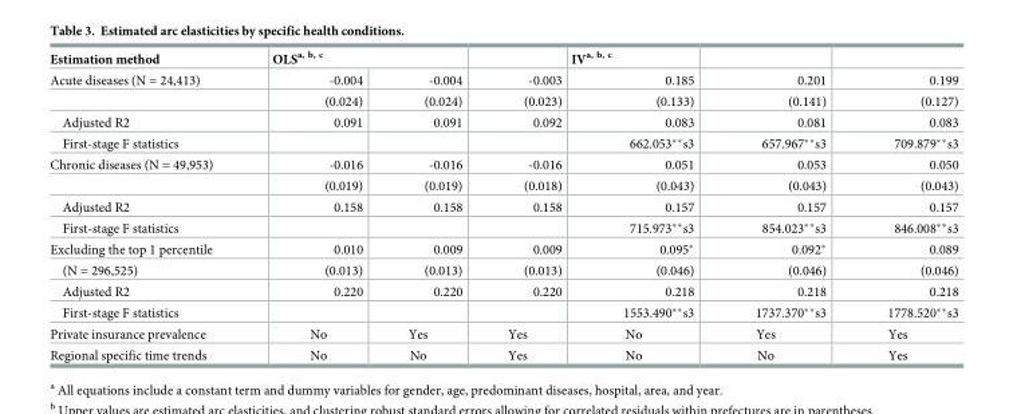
<table><thead><tr><td rowspan="2">Estimation method Acute diseases (N = 24,413)</td><td colspan="2">OLS<sup>a, b, c</sup></td><td rowspan="2">-0.003</td><td rowspan="2">IV<sup>a, b, c</sup> 0.185</td><td rowspan="2">0.201</td><td rowspan="2">0.199</td></tr><tr><td>-0.004</td><td>-0.004</td></tr></thead><tbody><tr><td></td><td>(0.024)</td><td>(0.024)</td><td>(0.023)</td><td>(0.133)</td><td>(0.141)</td><td>(0.127)</td></tr><tr><td>Adjusted R2</td><td>0.091</td><td>0.091</td><td>0.092</td><td>0.083</td><td>0.081</td><td>0.083</td></tr><tr><td>First-stage F statistics</td><td></td><td></td><td></td><td>662.053**s3</td><td>657.967**s3</td><td>709.879**s3</td></tr><tr><td rowspan="2">Chronic diseases (N = 49,953)</td><td>-0.016</td><td>-0.016</td><td>-0.016</td><td>0.051</td><td>0.053</td><td>0.050</td></tr><tr><td>(0.019)</td><td>(0.019)</td><td>(0.018)</td><td>(0.043)</td><td>(0.043)</td><td>(0.043)</td></tr><tr><td>Adjusted R2</td><td>0.158</td><td>0.158</td><td>0.158</td><td>0.157</td><td>0.157</td><td>0.157</td></tr><tr><td>First-stage F statistics</td><td></td><td></td><td></td><td>715.973**s3</td><td>854.023**s3</td><td>846.008**s3</td></tr><tr><td>Excluding the top 1 percentile</td><td>0.010</td><td>0.009</td><td>0.009</td><td>0.095*</td><td>0.092*</td><td>0.089</td></tr><tr><td>(N = 296,525)</td><td>(0.013)</td><td>(0.013)</td><td>(0.013)</td><td>(0.046)</td><td>(0.046)</td><td>(0.046)</td></tr><tr><td>Adjusted R2</td><td>0.220</td><td>0.220</td><td>0.220</td><td>0.218</td><td>0.218</td><td>0.218</td></tr><tr><td>First-stage F statistics</td><td></td><td></td><td></td><td>1553.490**s3</td><td>1737.370**s3</td><td>1778.520**s3</td></tr><tr><td>Private insurance prevalence</td><td>No</td><td>Yes</td><td>Yes</td><td>No</td><td>Yes</td><td>Yes</td></tr><tr><td>Regional specific time trends</td><td>No</td><td>No</td><td>Yes</td><td>No</td><td>No</td><td>Yes</td></tr></tbody></table>